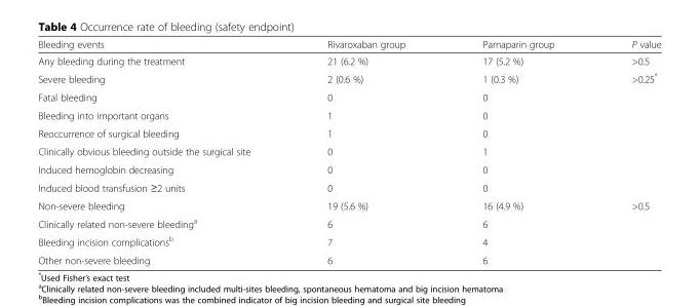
<table><thead><tr><td>Bleeding events</td><td>Rivaroxaban group</td><td>Parnaparin group</td><td>P value</td></tr></thead><tbody><tr><td>Any bleeding during the treatment</td><td>21 (6.2 %)</td><td>17 (5.2 %)</td><td>&gt;0.5</td></tr><tr><td>Severe bleeding</td><td>2 (0.6 %)</td><td>1 (0.3 %)</td><td>&gt;0.25*</td></tr><tr><td>Fatal bleeding</td><td>0</td><td>0</td><td></td></tr><tr><td>Bleeding into important organs</td><td>1</td><td>0</td><td></td></tr><tr><td>Reoccurrence of surgical bleeding</td><td>1</td><td>0</td><td></td></tr><tr><td>Clinically obvious bleeding outside the surgical site</td><td>0</td><td>1</td><td></td></tr><tr><td>Induced hemoglobin decreasing</td><td>0</td><td>0</td><td></td></tr><tr><td>Induced blood transfusion ≥2 units</td><td>0</td><td>0</td><td></td></tr><tr><td>Non-severe bleeding</td><td>19 (5.6 %)</td><td>16 (4.9 %)</td><td>&gt;0.5</td></tr><tr><td>Clinically related non-severe bleeding<sup>a</sup></td><td>6</td><td>6</td><td></td></tr><tr><td>Bleeding incision complications<sup>b</sup></td><td>7</td><td>4</td><td></td></tr><tr><td>Other non-severe bleeding</td><td>6</td><td>6</td><td></td></tr></tbody></table>